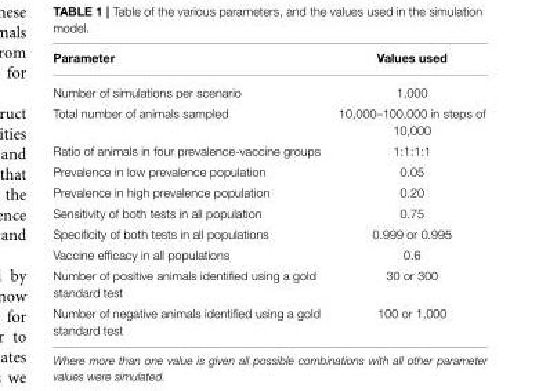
<table><thead><tr><td>Parameter</td><td>Values used</td></tr></thead><tbody><tr><td>Number of simulations per scenario</td><td>1,000</td></tr><tr><td>Total number of animals sampled</td><td>10,000–100,000 in steps of 10,000</td></tr><tr><td>Ratio of animals in four prevalence-vaccine groups</td><td>1:1:1:1</td></tr><tr><td>Prevalence in low prevalence population</td><td>0.05</td></tr><tr><td>Prevalence in high prevalence population</td><td>0.20</td></tr><tr><td>Sensitivity of both tests in all population</td><td>0.75</td></tr><tr><td>Specificity of both tests in all populations</td><td>0.999 or 0.995</td></tr><tr><td>Vaccine efficacy in all populations</td><td>0.6</td></tr><tr><td>Number of positive animals identified using a gold standard test</td><td>30 or 300</td></tr><tr><td>Number of negative animals identified using a gold standard test</td><td>100 or 1,000</td></tr></tbody></table>